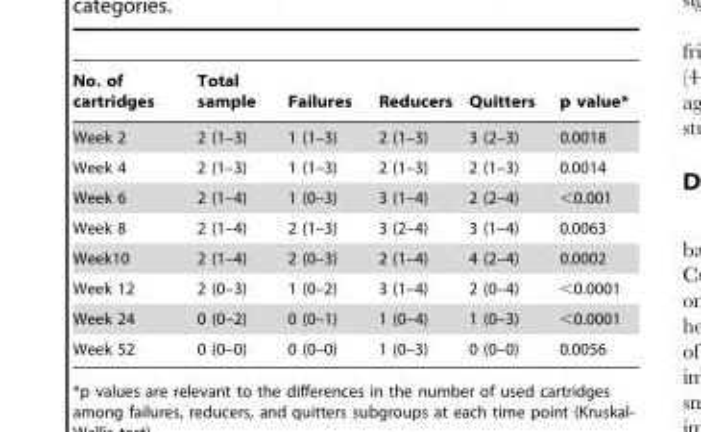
<table><thead><tr><td>No. of cartridges</td><td>Total sample</td><td>Failures</td><td>Reducers</td><td>Quitters</td><td>p value*</td></tr></thead><tbody><tr><td>Week 2</td><td>2 (1–3)</td><td>1 (1–3)</td><td>2 (1–3)</td><td>3 (2–3)</td><td>0.0018</td></tr><tr><td>Week 4</td><td>2 (1–3)</td><td>1 (1–3)</td><td>2 (1–3)</td><td>2 (1–3)</td><td>0.0014</td></tr><tr><td>Week 6</td><td>2 (1–4)</td><td>1 (0–3)</td><td>3 (1–4)</td><td>2 (2–4)</td><td>&lt;0.001</td></tr><tr><td>Week 8</td><td>2 (1–4)</td><td>2 (1–3)</td><td>3 (2–4)</td><td>3 (1–4)</td><td>0.0063</td></tr><tr><td>Week10</td><td>2 (1–4)</td><td>2 (0–3)</td><td>2 (1–4)</td><td>4 (2–4)</td><td>0.0002</td></tr><tr><td>Week 12</td><td>2 (0–3)</td><td>1 (0–2)</td><td>3 (1–4)</td><td>2 (0–4)</td><td>&lt;0.0001</td></tr><tr><td>Week 24</td><td>0 (0–2)</td><td>0 (0–1)</td><td>1 (0–4)</td><td>1 (0–3)</td><td>&lt;0.0001</td></tr><tr><td>Week 52</td><td>0 (0–0)</td><td>0 (0–0)</td><td>1 (0–3)</td><td>0 (0–0)</td><td>0.0056</td></tr></tbody></table>